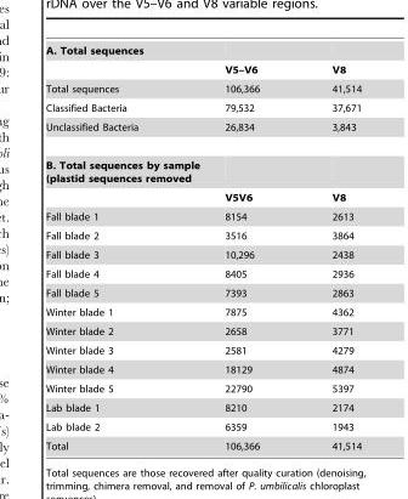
<table><tbody><tr><td colspan="3">A. Total sequences</td></tr><tr><td></td><td>V5–V6</td><td>V8</td></tr><tr><td>Total sequences</td><td>106,366</td><td>41,514</td></tr><tr><td>Classified Bacteria</td><td>79,532</td><td>37,671</td></tr><tr><td>Unclassified Bacteria</td><td>26,834</td><td>3,843</td></tr><tr><td colspan="3">B. Total sequences by sample (plastid sequences removed</td></tr><tr><td></td><td>V5V6</td><td>V8</td></tr><tr><td>Fall blade 1</td><td>8154</td><td>2613</td></tr><tr><td>Fall blade 2</td><td>3516</td><td>3864</td></tr><tr><td>Fall blade 3</td><td>10,296</td><td>2438</td></tr><tr><td>Fall blade 4</td><td>8405</td><td>2936</td></tr><tr><td>Fall blade 5</td><td>7393</td><td>2863</td></tr><tr><td>Winter blade 1</td><td>7875</td><td>4362</td></tr><tr><td>Winter blade 2</td><td>2658</td><td>3771</td></tr><tr><td>Winter blade 3</td><td>2581</td><td>4279</td></tr><tr><td>Winter blade 4</td><td>18129</td><td>4874</td></tr><tr><td>Winter blade 5</td><td>22790</td><td>5397</td></tr><tr><td>Lab blade 1</td><td>8210</td><td>2174</td></tr><tr><td>Lab blade 2</td><td>6359</td><td>1943</td></tr><tr><td>Total</td><td>106,366</td><td>41,514</td></tr></tbody></table>